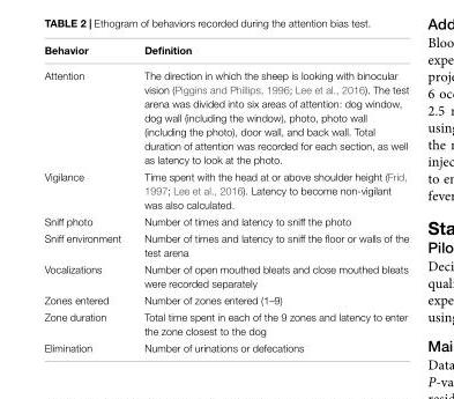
<table><thead><tr><td>Behavior</td><td>Definition</td></tr></thead><tbody><tr><td>Attention</td><td>The direction in which the sheep is looking with binocular vision (Piggins and Phillips, 1996; Lee et al., 2016). The test arena was divided into six areas of attention: dog window, dog wall (including the window), photo, photo wall (including the photo), door wall, and back wall. Total duration of attention was recorded for each section, as well as latency to look at the photo.</td></tr><tr><td>Vigilance</td><td>Time spent with the head at or above shoulder height (Frid, 1997; Lee et al., 2016). Latency to become non-vigilant was also calculated.</td></tr><tr><td>Sniff photo</td><td>Number of times and latency to sniff the photo</td></tr><tr><td>Sniff environment</td><td>Number of times and latency to sniff the floor or walls of the test arena</td></tr><tr><td>Vocalizations</td><td>Number of open mouthed bleats and close mouthed bleats were recorded separately</td></tr><tr><td>Zones entered</td><td>Number of zones entered (1–9)</td></tr><tr><td>Zone duration</td><td>Total time spent in each of the 9 zones and latency to enter the zone closest to the dog</td></tr><tr><td>Elimination</td><td>Number of urinations or defecations</td></tr></tbody></table>